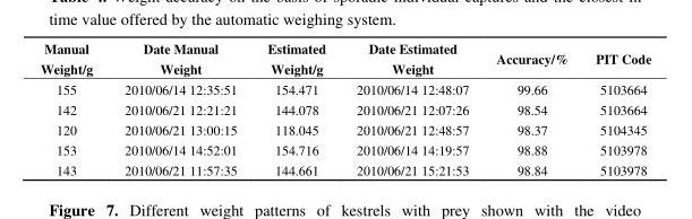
<table><thead><tr><td>Manual Weight/g</td><td>Date Manual Weight</td><td>Estimated Weight/g</td><td>Date Estimated Weight</td><td>Accuracy/%</td><td>PIT Code</td></tr></thead><tbody><tr><td>155</td><td>2010/06/14 12:35:51</td><td>154.471</td><td>2010/06/14 12:48:07</td><td>99.66</td><td>5103664</td></tr><tr><td>142</td><td>2010/06/21 12:21:21</td><td>144.078</td><td>2010/06/21 12:07:26</td><td>98.54</td><td>5103664</td></tr><tr><td>120</td><td>2010/06/21 13:00:15</td><td>118.045</td><td>2010/06/21 12:48:57</td><td>98.37</td><td>5104345</td></tr><tr><td>153</td><td>2010/06/14 14:52:01</td><td>154.716</td><td>2010/06/14 14:19:57</td><td>98.88</td><td>5103978</td></tr><tr><td>143</td><td>2010/06/21 11:57:35</td><td>144.661</td><td>2010/06/21 15:21:53</td><td>98.84</td><td>5103978</td></tr></tbody></table>